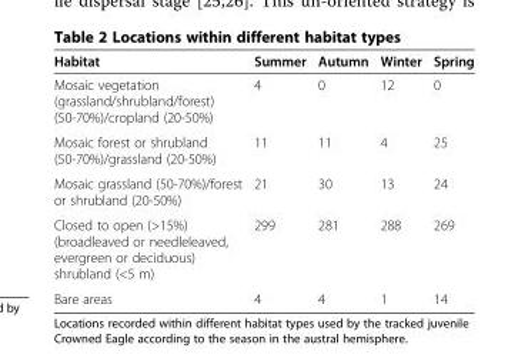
<table><thead><tr><td>Habitat</td><td>Summer</td><td>Autumn</td><td>Winter</td><td>Spring</td></tr></thead><tbody><tr><td>Mosaic vegetation (grassland/shrubland/forest) (50-70%)/cropland (20-50%)</td><td>4</td><td>0</td><td>12</td><td>0</td></tr><tr><td>Mosaic forest or shrubland (50-70%)/grassland (20-50%)</td><td>11</td><td>11</td><td>4</td><td>25</td></tr><tr><td>Mosaic grassland (50-70%)/forest or shrubland (20-50%)</td><td>21</td><td>30</td><td>13</td><td>24</td></tr><tr><td>Closed to open (&gt;15%) (broadleaved or needleleaved, evergreen or deciduous) shrubland (&lt;5 m)</td><td>299</td><td>281</td><td>288</td><td>269</td></tr><tr><td>Bare areas</td><td>4</td><td>4</td><td>1</td><td>14</td></tr></tbody></table>